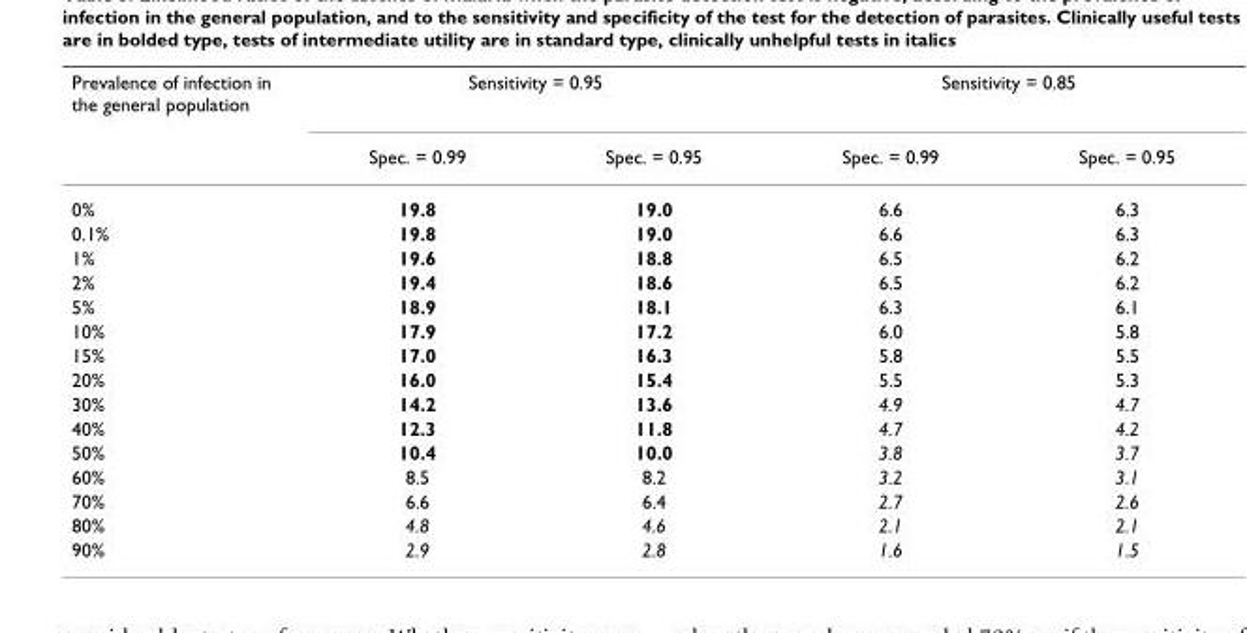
<table><thead><tr><td rowspan="2">Prevalence of infection in the general population</td><td colspan="2">Sensitivity = 0.95</td><td colspan="2">Sensitivity = 0.85</td></tr><tr><td>Spec. = 0.99</td><td>Spec. = 0.95</td><td>Spec. = 0.99</td><td>Spec. = 0.95</td></tr></thead><tbody><tr><td>0%</td><td>19.8</td><td>19.0</td><td>6.6</td><td>6.3</td></tr><tr><td>0.1%</td><td>19.8</td><td>19.0</td><td>6.6</td><td>6.3</td></tr><tr><td>1%</td><td>19.6</td><td>18.8</td><td>6.5</td><td>6.2</td></tr><tr><td>2%</td><td>19.4</td><td>18.6</td><td>6.5</td><td>6.2</td></tr><tr><td>5%</td><td>18.9</td><td>18.1</td><td>6.3</td><td>6.1</td></tr><tr><td>10%</td><td>17.9</td><td>17.2</td><td>6.0</td><td>5.8</td></tr><tr><td>15%</td><td>17.0</td><td>16.3</td><td>5.8</td><td>5.5</td></tr><tr><td>20%</td><td>16.0</td><td>15.4</td><td>5.5</td><td>5.3</td></tr><tr><td>30%</td><td>14.2</td><td>13.6</td><td>4.9</td><td>4.7</td></tr><tr><td>40%</td><td>12.3</td><td>11.8</td><td>4.7</td><td>4.2</td></tr><tr><td>50%</td><td>10.4</td><td>10.0</td><td>3.8</td><td>3.7</td></tr><tr><td>60%</td><td>8.5</td><td>8.2</td><td>3.2</td><td>3.1</td></tr><tr><td>70%</td><td>6.6</td><td>6.4</td><td>2.7</td><td>2.6</td></tr><tr><td>80%</td><td>4.8</td><td>4.6</td><td>2.1</td><td>2.1</td></tr><tr><td>90%</td><td>2.9</td><td>2.8</td><td>1.6</td><td>1.5</td></tr></tbody></table>